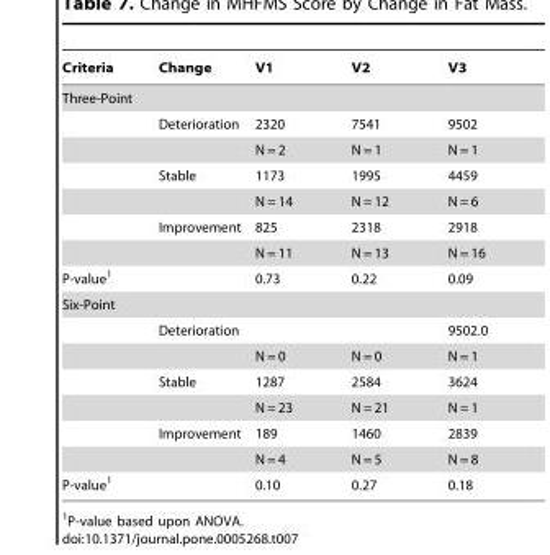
<table><thead><tr><td>Criteria</td><td>Change</td><td>V1</td><td>V2</td><td>V3</td></tr></thead><tbody><tr><td colspan="5">Three-Point</td></tr><tr><td></td><td>Deterioration</td><td>2320</td><td>7541</td><td>9502</td></tr><tr><td></td><td></td><td>N = 2</td><td>N = 1</td><td>N = 1</td></tr><tr><td></td><td>Stable</td><td>1173</td><td>1995</td><td>4459</td></tr><tr><td></td><td></td><td>N = 14</td><td>N = 12</td><td>N = 6</td></tr><tr><td></td><td>Improvement</td><td>825</td><td>2318</td><td>2918</td></tr><tr><td></td><td></td><td>N = 11</td><td>N = 13</td><td>N = 16</td></tr><tr><td>P-value<sup>1</sup></td><td></td><td>0.73</td><td>0.22</td><td>0.09</td></tr><tr><td colspan="5">Six-Point</td></tr><tr><td></td><td>Deterioration</td><td></td><td></td><td>9502.0</td></tr><tr><td></td><td></td><td>N = 0</td><td>N = 0</td><td>N = 1</td></tr><tr><td></td><td>Stable</td><td>1287</td><td>2584</td><td>3624</td></tr><tr><td></td><td></td><td>N = 23</td><td>N = 21</td><td>N = 1</td></tr><tr><td></td><td>Improvement</td><td>189</td><td>1460</td><td>2839</td></tr><tr><td></td><td></td><td>N = 4</td><td>N = 5</td><td>N = 8</td></tr><tr><td>P-value<sup>1</sup></td><td></td><td>0.10</td><td>0.27</td><td>0.18</td></tr></tbody></table>